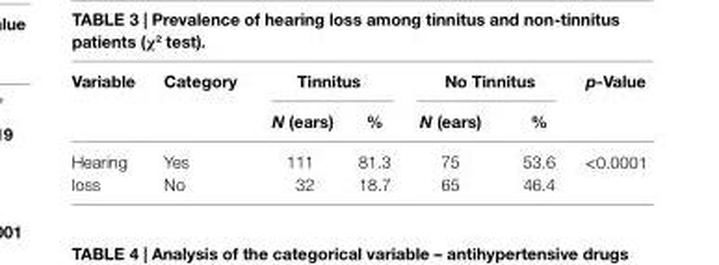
<table><thead><tr><td rowspan="2">Variable</td><td rowspan="2">category</td><td colspan="2">Tinnitus</td><td colspan="2">no Tinnitus</td><td rowspan="2">p-Value</td></tr><tr><td>N (ears)</td><td>%</td><td>N (ears)</td><td>%</td></tr></thead><tbody><tr><td rowspan="2">Hearing loss</td><td>Yes</td><td>111</td><td>81.3</td><td>75</td><td>53.6</td><td rowspan="2">&lt;0.0001</td></tr><tr><td>No</td><td>32</td><td>18.7</td><td>65</td><td>46.4</td></tr></tbody></table>